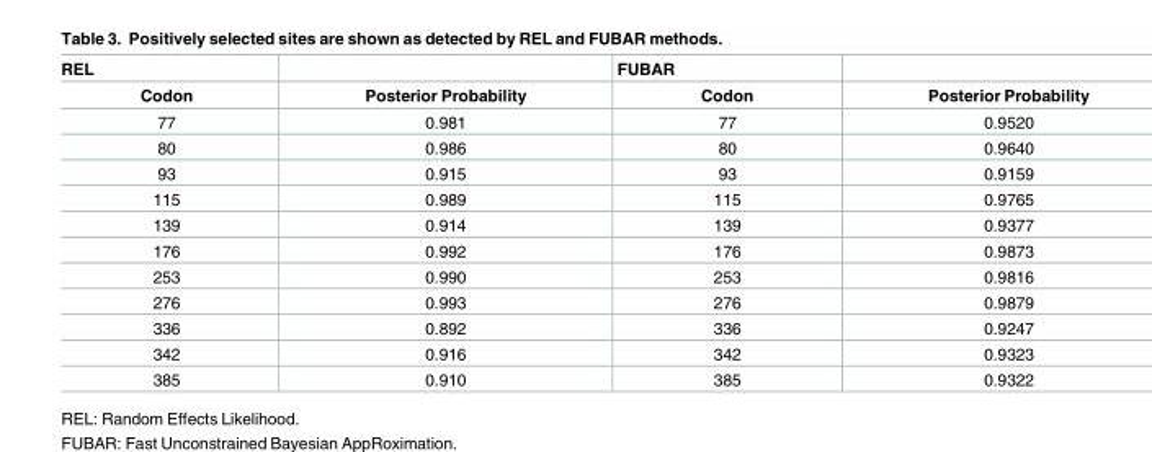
<table><thead><tr><td rowspan="2">REL Codon</td><td rowspan="2">Posterior Probability</td><td rowspan="2">FUBAR Codon</td><td rowspan="2">Posterior Probability</td></tr><tr></tr></thead><tbody><tr><td>77</td><td>0.981</td><td>77</td><td>0.9520</td></tr><tr><td>80</td><td>0.986</td><td>80</td><td>0.9640</td></tr><tr><td>93</td><td>0.915</td><td>93</td><td>0.9159</td></tr><tr><td>115</td><td>0.989</td><td>115</td><td>0.9765</td></tr><tr><td>139</td><td>0.914</td><td>139</td><td>0.9377</td></tr><tr><td>176</td><td>0.992</td><td>176</td><td>0.9873</td></tr><tr><td>253</td><td>0.990</td><td>253</td><td>0.9816</td></tr><tr><td>276</td><td>0.993</td><td>276</td><td>0.9879</td></tr><tr><td>336</td><td>0.892</td><td>336</td><td>0.9247</td></tr><tr><td>342</td><td>0.916</td><td>342</td><td>0.9323</td></tr><tr><td>385</td><td>0.910</td><td>385</td><td>0.9322</td></tr></tbody></table>